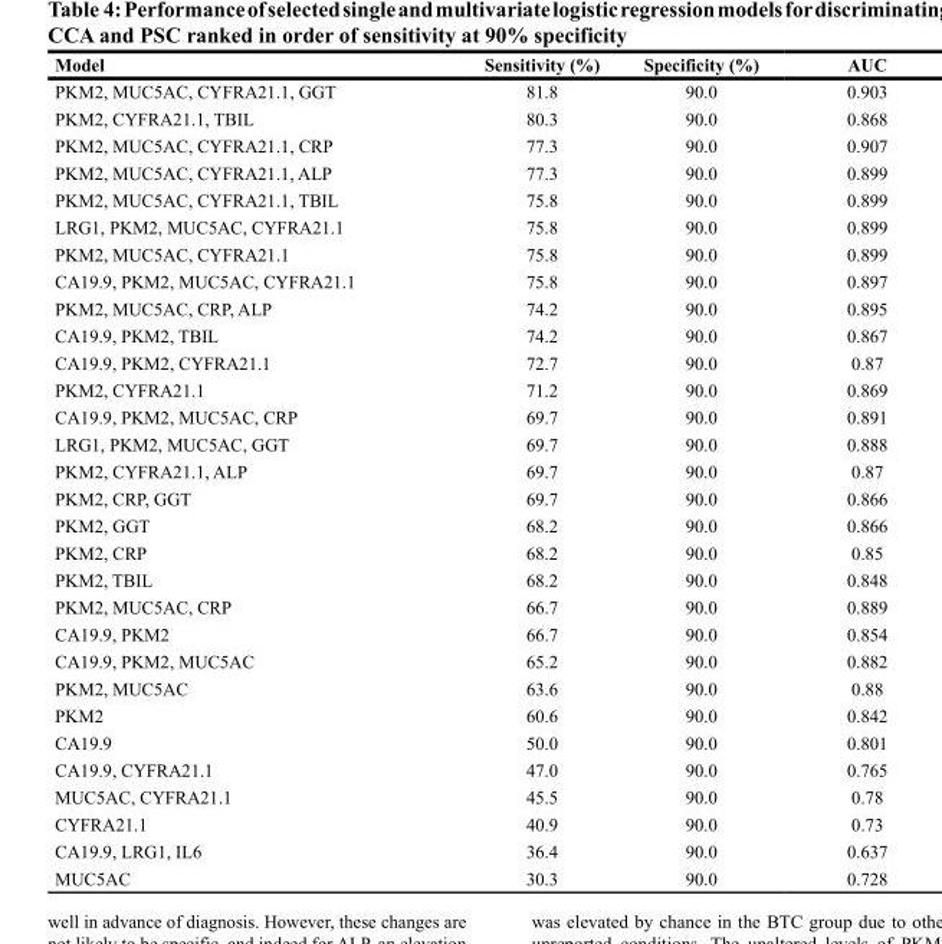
<table><thead><tr><td>Model</td><td>Sensitivity (%)</td><td>Specificity (%)</td><td>AUC</td></tr></thead><tbody><tr><td>PKM2, MUC5AC, CYFRA21.1, GGT</td><td>81.8</td><td>90.0</td><td>0.903</td></tr><tr><td>PKM2, CYFRA21.1, TBIL</td><td>80.3</td><td>90.0</td><td>0.868</td></tr><tr><td>PKM2, MUC5AC, CYFRA21.1, CRP</td><td>77.3</td><td>90.0</td><td>0.907</td></tr><tr><td>PKM2, MUC5AC, CYFRA21.1, ALP</td><td>77.3</td><td>90.0</td><td>0.899</td></tr><tr><td>PKM2, MUC5AC, CYFRA21.1, TBIL</td><td>75.8</td><td>90.0</td><td>0.899</td></tr><tr><td>LRG1, PKM2, MUC5AC, CYFRA21.1</td><td>75.8</td><td>90.0</td><td>0.899</td></tr><tr><td>PKM2, MUC5AC, CYFRA21.1</td><td>75.8</td><td>90.0</td><td>0.899</td></tr><tr><td>CA19.9, PKM2, MUC5AC, CYFRA21.1</td><td>75.8</td><td>90.0</td><td>0.897</td></tr><tr><td>PKM2, MUC5AC, CRP, ALP</td><td>74.2</td><td>90.0</td><td>0.895</td></tr><tr><td>CA19.9, PKM2, TBIL</td><td>74.2</td><td>90.0</td><td>0.867</td></tr><tr><td>CA19.9, PKM2, CYFRA21.1</td><td>72.7</td><td>90.0</td><td>0.87</td></tr><tr><td>PKM2, CYFRA21.1</td><td>71.2</td><td>90.0</td><td>0.869</td></tr><tr><td>CA19.9, PKM2, MUC5AC, CRP</td><td>69.7</td><td>90.0</td><td>0.891</td></tr><tr><td>LRG1, PKM2, MUC5AC, GGT</td><td>69.7</td><td>90.0</td><td>0.888</td></tr><tr><td>PKM2, CYFRA21.1, ALP</td><td>69.7</td><td>90.0</td><td>0.87</td></tr><tr><td>PKM2, CRP, GGT</td><td>69.7</td><td>90.0</td><td>0.866</td></tr><tr><td>PKM2, GGT</td><td>68.2</td><td>90.0</td><td>0.866</td></tr><tr><td>PKM2, CRP</td><td>68.2</td><td>90.0</td><td>0.85</td></tr><tr><td>PKM2, TBIL</td><td>68.2</td><td>90.0</td><td>0.848</td></tr><tr><td>PKM2, MUC5AC, CRP</td><td>66.7</td><td>90.0</td><td>0.889</td></tr><tr><td>CA19.9, PKM2</td><td>66.7</td><td>90.0</td><td>0.854</td></tr><tr><td>CA19.9, PKM2, MUC5AC</td><td>65.2</td><td>90.0</td><td>0.882</td></tr><tr><td>PKM2, MUC5AC</td><td>63.6</td><td>90.0</td><td>0.88</td></tr><tr><td>PKM2</td><td>60.6</td><td>90.0</td><td>0.842</td></tr><tr><td>CA19.9</td><td>50.0</td><td>90.0</td><td>0.801</td></tr><tr><td>CA19.9, CYFRA21.1</td><td>47.0</td><td>90.0</td><td>0.765</td></tr><tr><td>MUC5AC, CYFRA21.1</td><td>45.5</td><td>90.0</td><td>0.78</td></tr><tr><td>CYFRA21.1</td><td>40.9</td><td>90.0</td><td>0.73</td></tr><tr><td>CA19.9, LRG1, IL6</td><td>36.4</td><td>90.0</td><td>0.637</td></tr><tr><td>MUC5AC</td><td>30.3</td><td>90.0</td><td>0.728</td></tr></tbody></table>